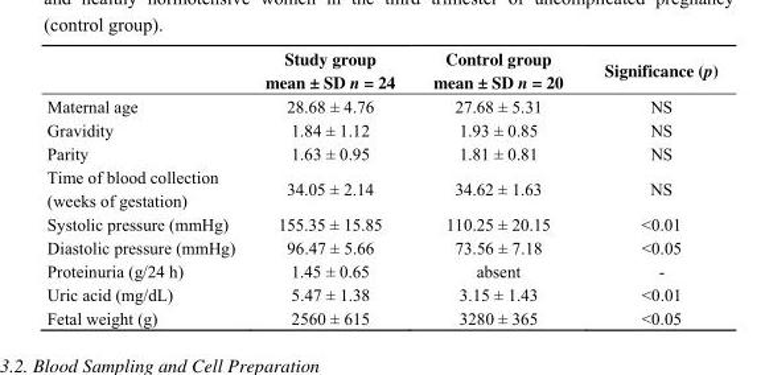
<table><thead><tr><td></td><td>Study group mean ± SD n = 24</td><td>Control group mean ± SD n = 20</td><td>Significance (p)</td></tr></thead><tbody><tr><td>Maternal age</td><td>28.68 ± 4.76</td><td>27.68 ± 5.31</td><td>NS</td></tr><tr><td>Gravidity</td><td>1.84 ± 1.12</td><td>1.93 ± 0.85</td><td>NS</td></tr><tr><td>Parity</td><td>1.63 ± 0.95</td><td>1.81 ± 0.81</td><td>NS</td></tr><tr><td>Time of blood collection (weeks of gestation)</td><td>34.05 ± 2.14</td><td>34.62 ± 1.63</td><td>NS</td></tr><tr><td>Systolic pressure (mmHg)</td><td>155.35 ± 15.85</td><td>110.25 ± 20.15</td><td>&lt;0.01</td></tr><tr><td>Diastolic pressure (mmHg)</td><td>96.47 ± 5.66</td><td>73.56 ± 7.18</td><td>&lt;0.05</td></tr><tr><td>Proteinuria (g/24 h)</td><td>1.45 ± 0.65</td><td>absent</td><td>-</td></tr><tr><td>Uric acid (mg/dL)</td><td>5.47 ± 1.38</td><td>3.15 ± 1.43</td><td>&lt;0.01</td></tr><tr><td>Fetal weight (g)</td><td>2560 ± 615</td><td>3280 ± 365</td><td>&lt;0.05</td></tr></tbody></table>